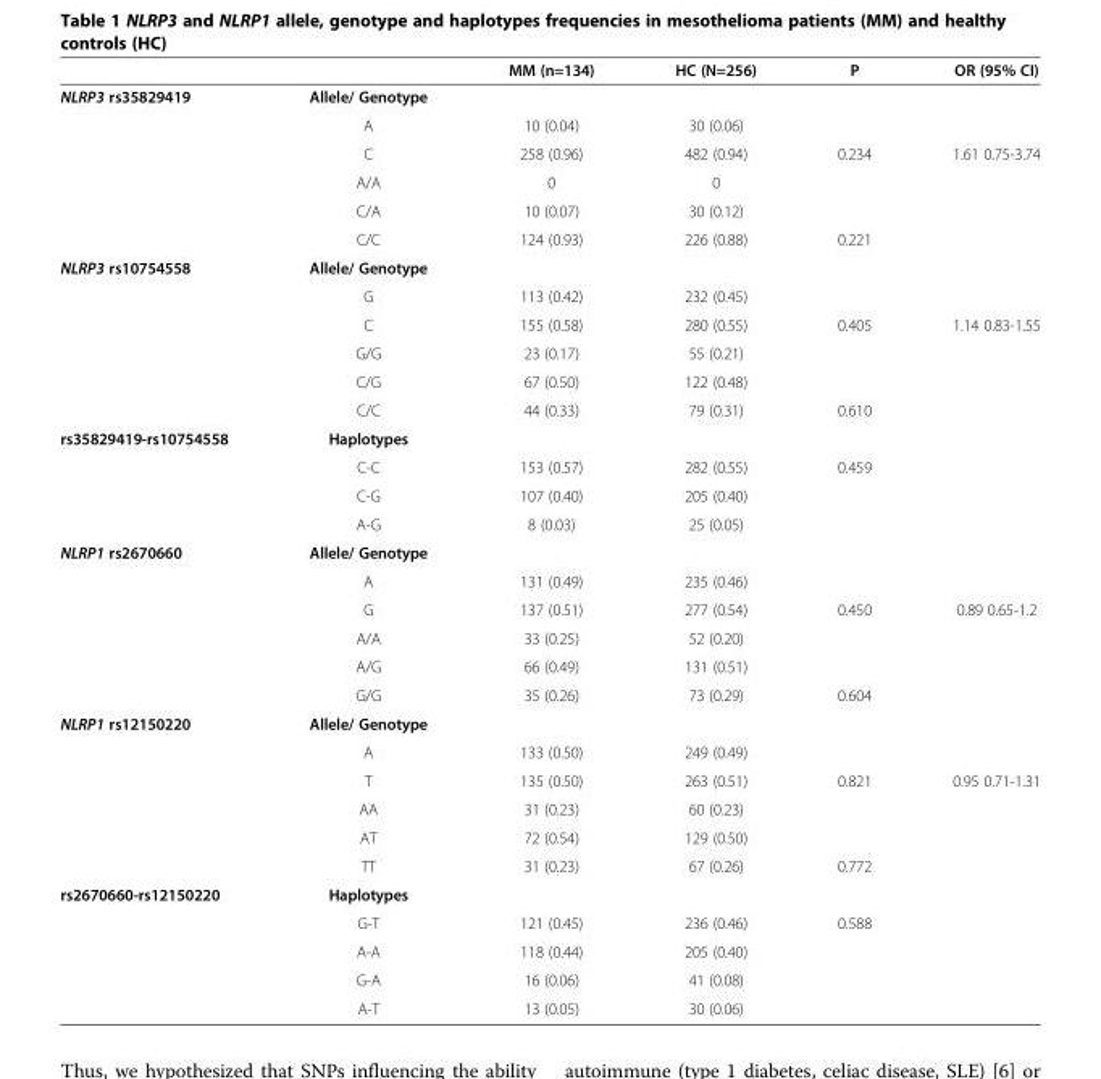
<table><thead><tr><td></td><td></td><td>MM (n=134)</td><td>HC (N=256)</td><td>P</td><td>OR (95% CI)</td></tr></thead><tbody><tr><td rowspan="6">NLRP3 rs35829419</td><td>Allele/ Genotype</td><td></td><td></td><td></td><td></td></tr><tr><td>A</td><td>10 (0.04)</td><td>30 (0.06)</td><td></td><td></td></tr><tr><td>C</td><td>258 (0.96)</td><td>482 (0.94)</td><td>0.234</td><td>1.61 0.75-3.74</td></tr><tr><td>A/A</td><td>0</td><td>0</td><td></td><td></td></tr><tr><td>C/A</td><td>10 (0.07)</td><td>30 (0.12)</td><td></td><td></td></tr><tr><td>C/C</td><td>124 (0.93)</td><td>226 (0.88)</td><td>0.221</td><td></td></tr><tr><td rowspan="6">NLRP3 rs10754558</td><td>Allele/ Genotype</td><td></td><td></td><td></td><td></td></tr><tr><td>G</td><td>113 (0.42)</td><td>232 (0.45)</td><td></td><td></td></tr><tr><td>C</td><td>155 (0.58)</td><td>280 (0.55)</td><td>0.405</td><td>1.14 0.83-1.55</td></tr><tr><td>G/G</td><td>23 (0.17)</td><td>55 (0.21)</td><td></td><td></td></tr><tr><td>C/G</td><td>67 (0.50)</td><td>122 (0.48)</td><td></td><td></td></tr><tr><td>C/C</td><td>44 (0.33)</td><td>79 (0.31)</td><td>0.610</td><td></td></tr><tr><td rowspan="4">rs35829419-rs10754558</td><td>Haplotypes</td><td></td><td></td><td></td><td></td></tr><tr><td>C-C</td><td>153 (0.57)</td><td>282 (0.55)</td><td>0.459</td><td></td></tr><tr><td>C-G</td><td>107 (0.40)</td><td>205 (0.40)</td><td></td><td></td></tr><tr><td>A-G</td><td>8 (0.03)</td><td>25 (0.05)</td><td></td><td></td></tr><tr><td rowspan="6">NLRP1 rs2670660</td><td>Allele/ Genotype</td><td></td><td></td><td></td><td></td></tr><tr><td>A</td><td>131 (0.49)</td><td>235 (0.46)</td><td></td><td></td></tr><tr><td>G</td><td>137 (0.51)</td><td>277 (0.54)</td><td>0.450</td><td>0.89 0.65-1.2</td></tr><tr><td>A/A</td><td>33 (0.25)</td><td>52 (0.20)</td><td></td><td></td></tr><tr><td>A/G</td><td>66 (0.49)</td><td>131 (0.51)</td><td></td><td></td></tr><tr><td>G/G</td><td>35 (0.26)</td><td>73 (0.29)</td><td>0.604</td><td></td></tr><tr><td rowspan="6">NLRP1 rs12150220</td><td>Allele/ Genotype</td><td></td><td></td><td></td><td></td></tr><tr><td>A</td><td>133 (0.50)</td><td>249 (0.49)</td><td></td><td></td></tr><tr><td>T</td><td>135 (0.50)</td><td>263 (0.51)</td><td>0.821</td><td>0.95 0.71-1.31</td></tr><tr><td>AA</td><td>31 (0.23)</td><td>60 (0.23)</td><td></td><td></td></tr><tr><td>AT</td><td>72 (0.54)</td><td>129 (0.50)</td><td></td><td></td></tr><tr><td>TT</td><td>31 (0.23)</td><td>67 (0.26)</td><td>0.772</td><td></td></tr><tr><td rowspan="5">rs2670660-rs12150220</td><td>Haplotypes</td><td></td><td></td><td></td><td></td></tr><tr><td>G-T</td><td>121 (0.45)</td><td>236 (0.46)</td><td>0.588</td><td></td></tr><tr><td>A-A</td><td>118 (0.44)</td><td>205 (0.40)</td><td></td><td></td></tr><tr><td>G-A</td><td>16 (0.06)</td><td>41 (0.08)</td><td></td><td></td></tr><tr><td>A-T</td><td>13 (0.05)</td><td>30 (0.06)</td><td></td><td></td></tr></tbody></table>